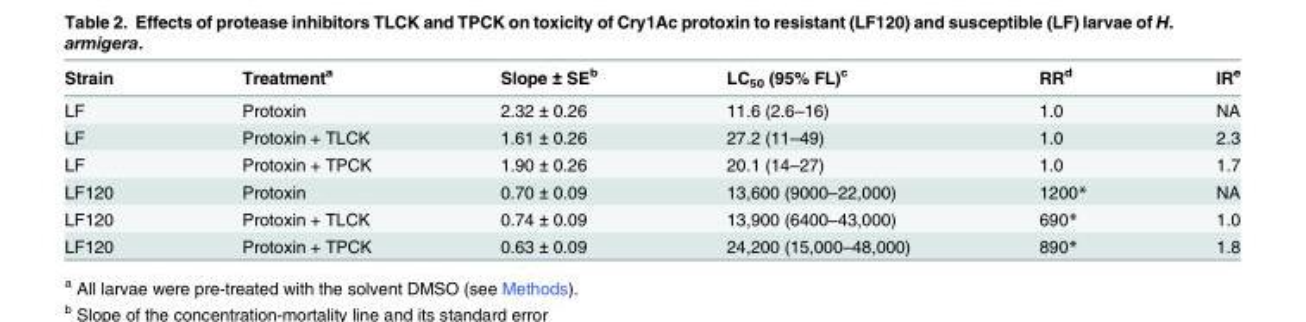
<table><thead><tr><td>Strain</td><td>Treatment<sup>a</sup></td><td>Slope ± SE<sup>b</sup></td><td>LC<sub>50</sub> (95% FL)<sup>c</sup></td><td>RR<sup>d</sup></td><td>IR<sup>e</sup></td></tr></thead><tbody><tr><td>LF</td><td>Protoxin</td><td>2.32 ± 0.26</td><td>11.6 (2.6–16)</td><td>1.0</td><td>NA</td></tr><tr><td>LF</td><td>Protoxin + TLCK</td><td>1.61 ± 0.26</td><td>27.2 (11–49)</td><td>1.0</td><td>2.3</td></tr><tr><td>LF</td><td>Protoxin + TPCK</td><td>1.90 ± 0.26</td><td>20.1 (14–27)</td><td>1.0</td><td>1.7</td></tr><tr><td>LF120</td><td>Protoxin</td><td>0.70 ± 0.09</td><td>13,600 (9000–22,000)</td><td>1200*</td><td>NA</td></tr><tr><td>LF120</td><td>Protoxin + TLCK</td><td>0.74 ± 0.09</td><td>13,900 (6400–43,000)</td><td>690*</td><td>1.0</td></tr><tr><td>LF120</td><td>Protoxin + TPCK</td><td>0.63 ± 0.09</td><td>24,200 (15,000–48,000)</td><td>890*</td><td>1.8</td></tr></tbody></table>